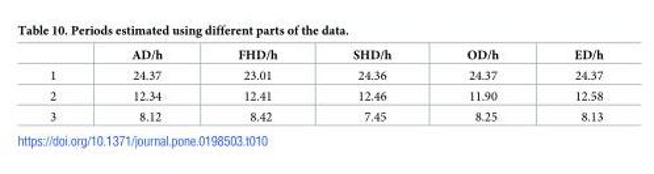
<table><thead><tr><td></td><td>AD/h</td><td>FHD/h</td><td>SHD/h</td><td>OD/h</td><td>ED/h</td></tr></thead><tbody><tr><td>1</td><td>24.37</td><td>23.01</td><td>24.36</td><td>24.37</td><td>24.37</td></tr><tr><td>2</td><td>12.34</td><td>12.41</td><td>12.46</td><td>11.90</td><td>12.58</td></tr><tr><td>3</td><td>8.12</td><td>8.42</td><td>7.45</td><td>8.25</td><td>8.13</td></tr></tbody></table>